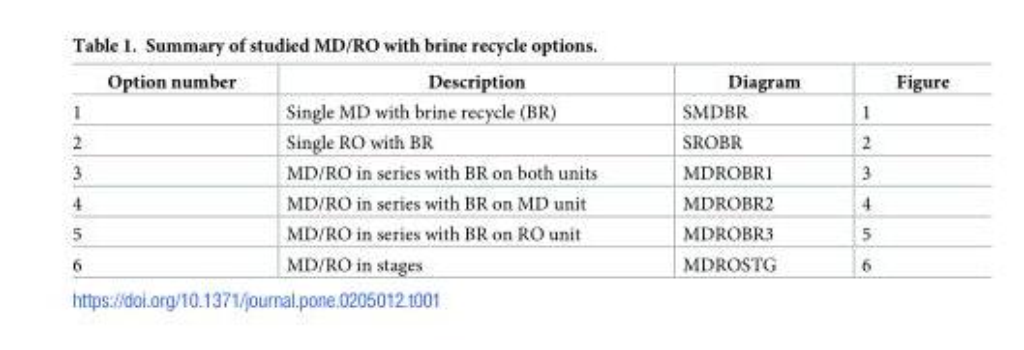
<table><thead><tr><td>Option number</td><td>Description</td><td>Diagram</td><td>Figure</td></tr></thead><tbody><tr><td>1</td><td>Single MD with brine recycle (BR)</td><td>SMDBR</td><td>1</td></tr><tr><td>2</td><td>Single RO with BR</td><td>SROBR</td><td>2</td></tr><tr><td>3</td><td>MD/RO in series with BR on both units</td><td>MDROBR1</td><td>3</td></tr><tr><td>4</td><td>MD/RO in series with BR on MD unit</td><td>MDROBR2</td><td>4</td></tr><tr><td>5</td><td>MD/RO in series with BR on RO unit</td><td>MDROBR3</td><td>5</td></tr><tr><td>6</td><td>MD/RO in stages</td><td>MDROSTG</td><td>6</td></tr></tbody></table>